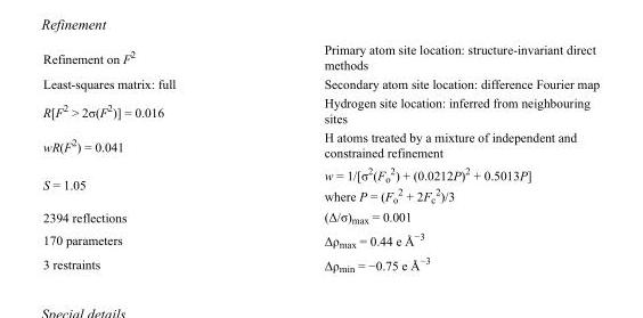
<table><tbody><tr><td>Refinement on F<sup>2</sup></td><td>Primary atom site location: structure-invariant direct methods</td></tr><tr><td>Least-squares matrix: full</td><td>Secondary atom site location: difference Fourier map</td></tr><tr><td>R[F<sup>2</sup> &gt; 2σ(F<sup>2</sup>)] = 0.016</td><td>Hydrogen site location: inferred from neighbouring sites</td></tr><tr><td>wR(F<sup>2</sup>) = 0.041</td><td>H atoms treated by a mixture of independent and constrained refinement</td></tr><tr><td>S = 1.05</td><td>w = 1/[σ<sup>2</sup>(F<sub>o</sub> <sup>2</sup>) + (0.0212P)<sup>2</sup> + 0.5013P] where P = (F<sub>o</sub> <sup>2</sup> + 2F<sub>c</sub> <sup>2</sup>)/3</td></tr><tr><td>2394 reflections</td><td>(Δ/σ)<sub>max</sub> = 0.001</td></tr><tr><td>170 parameters</td><td>Δρ<sub>max</sub> = 0.44 e Å<sup>−3</sup></td></tr><tr><td>3 restraints</td><td>Δρ<sub>min</sub> = −0.75 e Å<sup>−3</sup></td></tr></tbody></table>